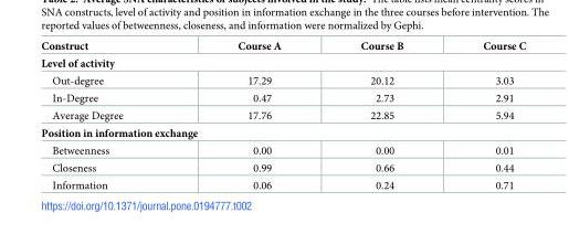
<table><thead><tr><td>Construct</td><td>Course A</td><td>Course B</td><td>Course C</td></tr></thead><tbody><tr><td colspan="4">Level of activity</td></tr><tr><td>Out-degree</td><td>17.29</td><td>20.12</td><td>3.03</td></tr><tr><td>In-Degree</td><td>0.47</td><td>2.73</td><td>2.91</td></tr><tr><td>Average Degree</td><td>17.76</td><td>22.85</td><td>5.94</td></tr><tr><td colspan="4">Position in information exchange</td></tr><tr><td>Betweenness</td><td>0.00</td><td>0.00</td><td>0.01</td></tr><tr><td>Closeness</td><td>0.99</td><td>0.66</td><td>0.44</td></tr><tr><td>Information</td><td>0.06</td><td>0.24</td><td>0.71</td></tr></tbody></table>